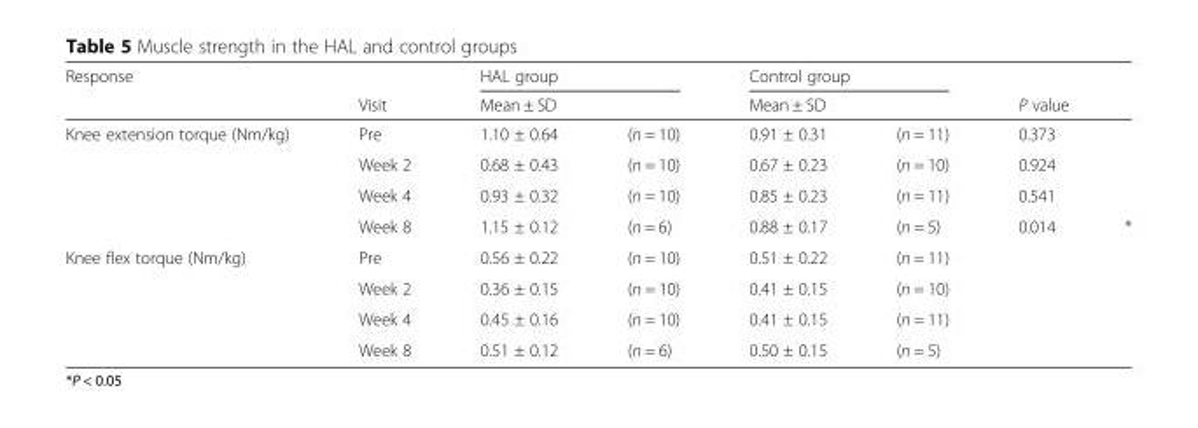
<table><thead><tr><td rowspan="2">Response</td><td rowspan="2">Visit</td><td colspan="2">HAL group</td><td colspan="2">Control group</td><td></td><td></td></tr><tr><td>Mean ± SD</td><td></td><td>Mean ± SD</td><td></td><td colspan="2">P value</td></tr></thead><tbody><tr><td rowspan="4">Knee extension torque (Nm/kg)</td><td>Pre</td><td>1.10 ± 0.64</td><td>(n = 10)</td><td>0.91 ± 0.31</td><td>(n = 11)</td><td>0.373</td><td></td></tr><tr><td>Week 2</td><td>0.68 ± 0.43</td><td>(n = 10)</td><td>0.67 ± 0.23</td><td>(n = 10)</td><td>0.924</td><td></td></tr><tr><td>Week 4</td><td>0.93 ± 0.32</td><td>(n = 10)</td><td>0.85 ± 0.23</td><td>(n = 11)</td><td>0.541</td><td></td></tr><tr><td>Week 8</td><td>1.15 ± 0.12</td><td>(n = 6)</td><td>0.88 ± 0.17</td><td>(n = 5)</td><td>0.014</td><td>*</td></tr><tr><td rowspan="4">Knee flex torque (Nm/kg)</td><td>Pre</td><td>0.56 ± 0.22</td><td>(n = 10)</td><td>0.51 ± 0.22</td><td>(n = 11)</td><td></td><td></td></tr><tr><td>Week 2</td><td>0.36 ± 0.15</td><td>(n = 10)</td><td>0.41 ± 0.15</td><td>(n = 10)</td><td></td><td></td></tr><tr><td>Week 4</td><td>0.45 ± 0.16</td><td>(n = 10)</td><td>0.41 ± 0.15</td><td>(n = 11)</td><td></td><td></td></tr><tr><td>Week 8</td><td>0.51 ± 0.12</td><td>(n = 6)</td><td>0.50 ± 0.15</td><td>(n = 5)</td><td></td><td></td></tr></tbody></table>